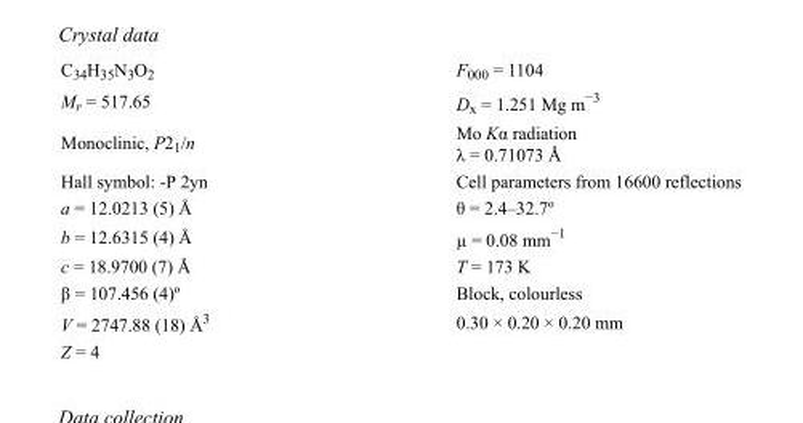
<table><tbody><tr><td>C<sub>34</sub>H<sub>35</sub>N<sub>3</sub>O<sub>2</sub></td><td>F000 = 1104</td></tr><tr><td>M<sub>r</sub> = 517.65</td><td>D<sub>x</sub> = 1.251 Mg m<sup>−3</sup></td></tr><tr><td>Monoclinic, P2<sub>1</sub>/n</td><td>Mo Kα radiation λ = 0.71073 Å</td></tr><tr><td>Hall symbol: -P 2yn</td><td>Cell parameters from 16600 reflections</td></tr><tr><td>a = 12.0213 (5) Å</td><td>θ = 2.4–32.7º</td></tr><tr><td>b = 12.6315 (4) Å</td><td>µ = 0.08 mm<sup>−1</sup></td></tr><tr><td>c = 18.9700 (7) Å</td><td>T = 173 K</td></tr><tr><td>β = 107.456 (4)º</td><td>Block, colourless</td></tr><tr><td>V = 2747.88 (18) Å<sup>3</sup></td><td>0.30 × 0.20 × 0.20 mm</td></tr><tr><td>Z = 4</td><td></td></tr></tbody></table>